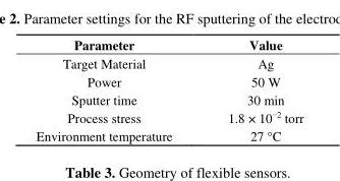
<table><thead><tr><td>Parameter</td><td>Value</td></tr></thead><tbody><tr><td>Target Material</td><td>Ag</td></tr><tr><td>Power</td><td>50 W</td></tr><tr><td>Sputter time</td><td>30 min</td></tr><tr><td>Process stress</td><td>1.8 × 10<sup>−2</sup> torr</td></tr><tr><td>Environment temperature</td><td>27 °C</td></tr></tbody></table>